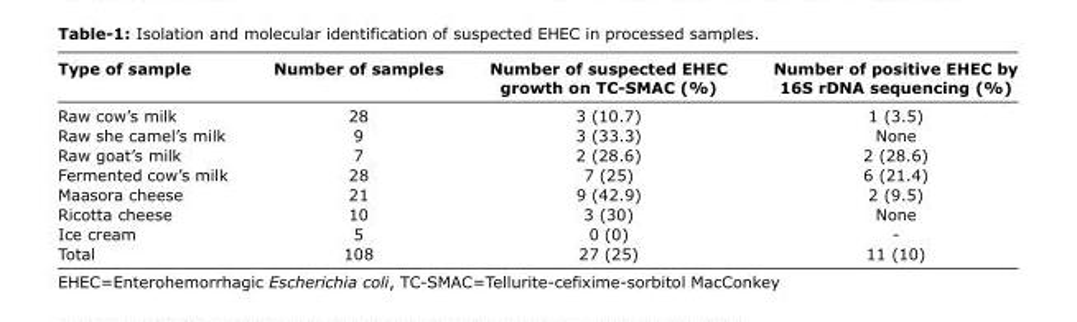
<table><thead><tr><td>Type of sample</td><td>Number of samples</td><td>Number of suspected EHEC growth on TC-SMAC (%)</td><td>Number of positive EHEC by 16S rDNA sequencing (%)</td></tr></thead><tbody><tr><td>Raw cow’s milk</td><td>28</td><td>3 (10.7)</td><td>1 (3.5)</td></tr><tr><td>Raw she camel’s milk</td><td>9</td><td>3 (33.3)</td><td>None</td></tr><tr><td>Raw goat’s milk</td><td>7</td><td>2 (28.6)</td><td>2 (28.6)</td></tr><tr><td>Fermented cow’s milk</td><td>28</td><td>7 (25)</td><td>6 (21.4)</td></tr><tr><td>Maasora cheese</td><td>21</td><td>9 (42.9)</td><td>2 (9.5)</td></tr><tr><td>Ricotta cheese</td><td>10</td><td>3 (30)</td><td>None</td></tr><tr><td>Ice cream</td><td>5</td><td>0 (0)</td><td>-</td></tr><tr><td>Total</td><td>108</td><td>27 (25)</td><td>11 (10)</td></tr></tbody></table>